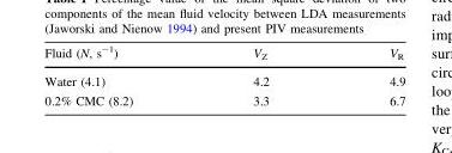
<table><thead><tr><td>Fluid (N, s<sup>-1</sup>)</td><td>V<sub>Z</sub></td><td>V<sub>R</sub></td></tr></thead><tbody><tr><td>Water (4.1)</td><td>4.2</td><td>4.9</td></tr><tr><td>0.2% CMC (8.2)</td><td>3.3</td><td>6.7</td></tr></tbody></table>